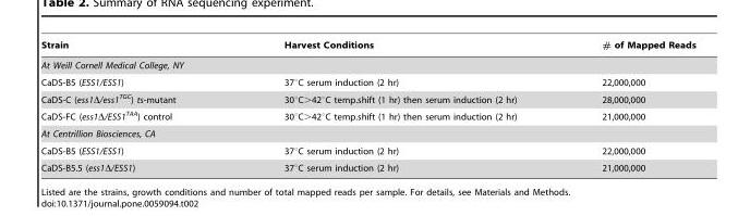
<table><thead><tr><td>Strain</td><td>Harvest Conditions</td><td># of Mapped Reads</td></tr></thead><tbody><tr><td colspan="3">At Weill Cornell Medical College, NY</td></tr><tr><td>CaDS-B5 (ESS1/ESS1)</td><td>37°C serum induction (2 hr)</td><td>22,000,000</td></tr><tr><td>CaDS-C (ess1Δ/ess1<sup>TGC</sup>) ts-mutant</td><td>30°C&gt;42°C temp.shift (1 hr) then serum induction (2 hr)</td><td>28,000,000</td></tr><tr><td>CaDS-FC (ess1Δ/ESS1<sup>TAA</sup>) control</td><td>30°C&gt;42°C temp.shift (1 hr) then serum induction (2 hr)</td><td>21,000,000</td></tr><tr><td colspan="3">At Centrillion Biosciences, CA</td></tr><tr><td>CaDS-B5 (ESS1/ESS1)</td><td>37°C serum induction (2 hr)</td><td>22,000,000</td></tr><tr><td>CaDS-B5.5 (ess1Δ/ESS1)</td><td>37°C serum induction (2 hr)</td><td>21,000,000</td></tr></tbody></table>